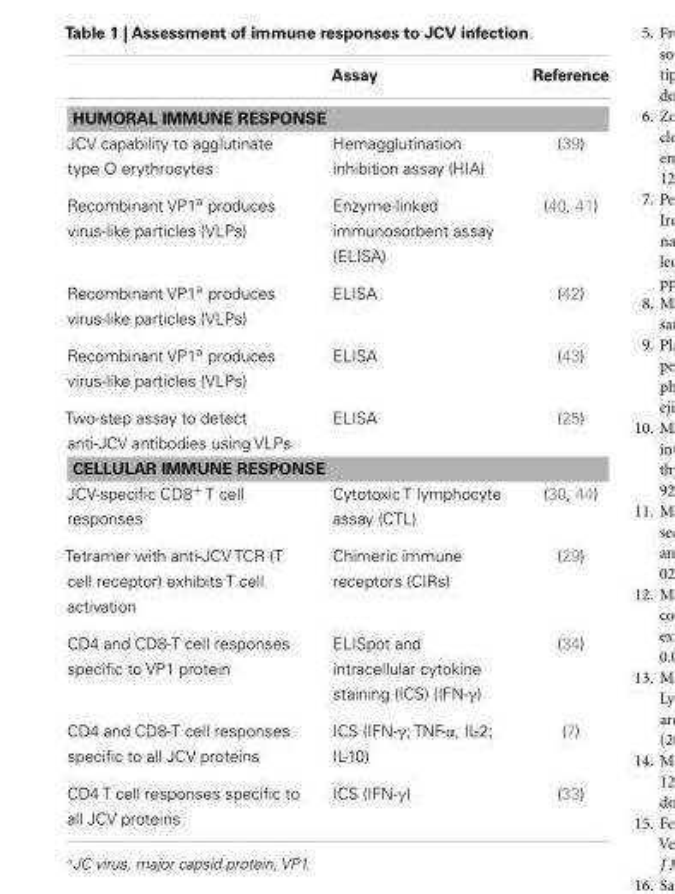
<table><thead><tr><td></td><td>Assay</td><td>Reference</td></tr></thead><tbody><tr><td colspan="3">HUMORAL IMMUNE RESPONSE</td></tr><tr><td>JCV capability to agglutinate type O erythrocytes</td><td>Hemagglutination inhibition assay (HIA)</td><td>(39)</td></tr><tr><td>Recombinant VP1<sup>a</sup> produces virus-like particles (VLPs)</td><td>Enzyme-linked immunosorbent assay (ELISA)</td><td>(40, 41)</td></tr><tr><td>Recombinant VP1<sup>a</sup> produces virus-like particles (VLPs)</td><td>ELISA</td><td>(42)</td></tr><tr><td>Recombinant VP1<sup>a</sup> produces virus-like particles (VLPs)</td><td>ELISA</td><td>(43)</td></tr><tr><td>Two-step assay to detect anti-JCV antibodies using VLPs</td><td>ELISA</td><td>(25)</td></tr><tr><td colspan="3">CELLULAR IMMUNE RESPONSE</td></tr><tr><td>JCV-specific CD8<sup>+</sup> T cell responses</td><td>Cytotoxic T lymphocyte assay (CTL)</td><td>(30, 44)</td></tr><tr><td>Tetramer with anti-JCV TCR (T cell receptor) exhibits T cell activation</td><td>Chimeric immune receptors (CIRs)</td><td>(29)</td></tr><tr><td>CD4 and CD8-T cell responses specific to VP1 protein</td><td>ELISpot and intracellular cytokine staining (ICS) (IFN-γ)</td><td>(34)</td></tr><tr><td>CD4 and CD8-T cell responses specific to all JCV proteins</td><td>ICS (IFN-γ; TNF-α, IL-2; IL-10)</td><td>(7)</td></tr><tr><td>CD4 T cell responses specific to all JCV proteins</td><td>ICS (IFN-γ)</td><td>(33)</td></tr></tbody></table>